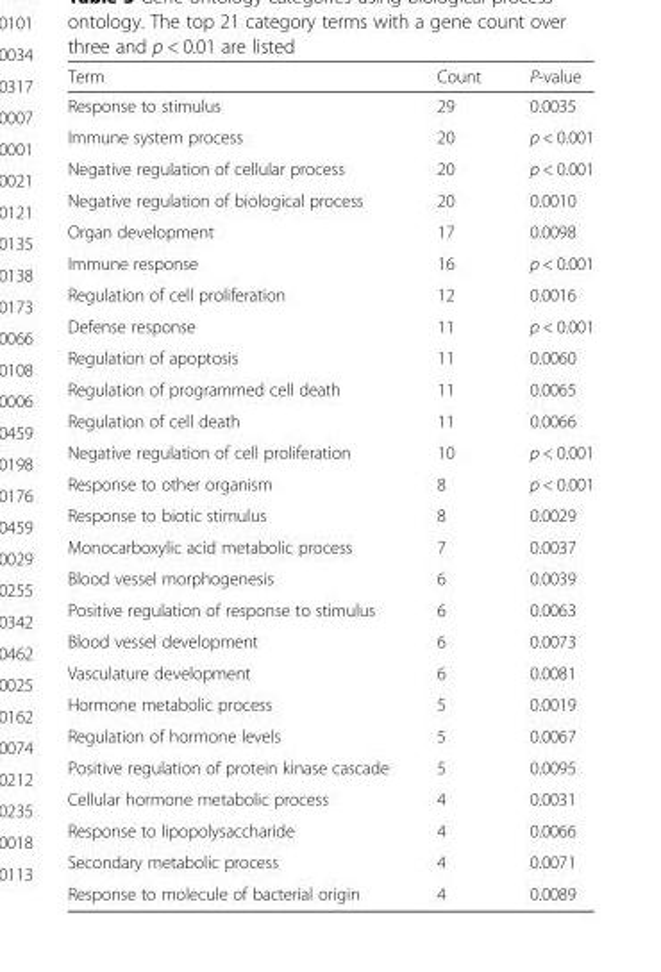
<table><thead><tr><td>Term</td><td>Count</td><td>P-value</td></tr></thead><tbody><tr><td>Response to stimulus</td><td>29</td><td>0.0035</td></tr><tr><td>Immune system process</td><td>20</td><td>p &lt; 0.001</td></tr><tr><td>Negative regulation of cellular process</td><td>20</td><td>p &lt; 0.001</td></tr><tr><td>Negative regulation of biological process</td><td>20</td><td>0.0010</td></tr><tr><td>Organ development</td><td>17</td><td>0.0098</td></tr><tr><td>Immune response</td><td>16</td><td>p &lt; 0.001</td></tr><tr><td>Regulation of cell proliferation</td><td>12</td><td>0.0016</td></tr><tr><td>Defense response</td><td>11</td><td>p &lt; 0.001</td></tr><tr><td>Regulation of apoptosis</td><td>11</td><td>0.0060</td></tr><tr><td>Regulation of programmed cell death</td><td>11</td><td>0.0065</td></tr><tr><td>Regulation of cell death</td><td>11</td><td>0.0066</td></tr><tr><td>Negative regulation of cell proliferation</td><td>10</td><td>p &lt; 0.001</td></tr><tr><td>Response to other organism</td><td>8</td><td>p &lt; 0.001</td></tr><tr><td>Response to biotic stimulus</td><td>8</td><td>0.0029</td></tr><tr><td>Monocarboxylic acid metabolic process</td><td>7</td><td>0.0037</td></tr><tr><td>Blood vessel morphogenesis</td><td>6</td><td>0.0039</td></tr><tr><td>Positive regulation of response to stimulus</td><td>6</td><td>0.0063</td></tr><tr><td>Blood vessel development</td><td>6</td><td>0.0073</td></tr><tr><td>Vasculature development</td><td>6</td><td>0.0081</td></tr><tr><td>Hormone metabolic process</td><td>5</td><td>0.0019</td></tr><tr><td>Regulation of hormone levels</td><td>5</td><td>0.0067</td></tr><tr><td>Positive regulation of protein kinase cascade</td><td>5</td><td>0.0095</td></tr><tr><td>Cellular hormone metabolic process</td><td>4</td><td>0.0031</td></tr><tr><td>Response to lipopolysaccharide</td><td>4</td><td>0.0066</td></tr><tr><td>Secondary metabolic process</td><td>4</td><td>0.0071</td></tr><tr><td>Response to molecule of bacterial origin</td><td>4</td><td>0.0089</td></tr></tbody></table>